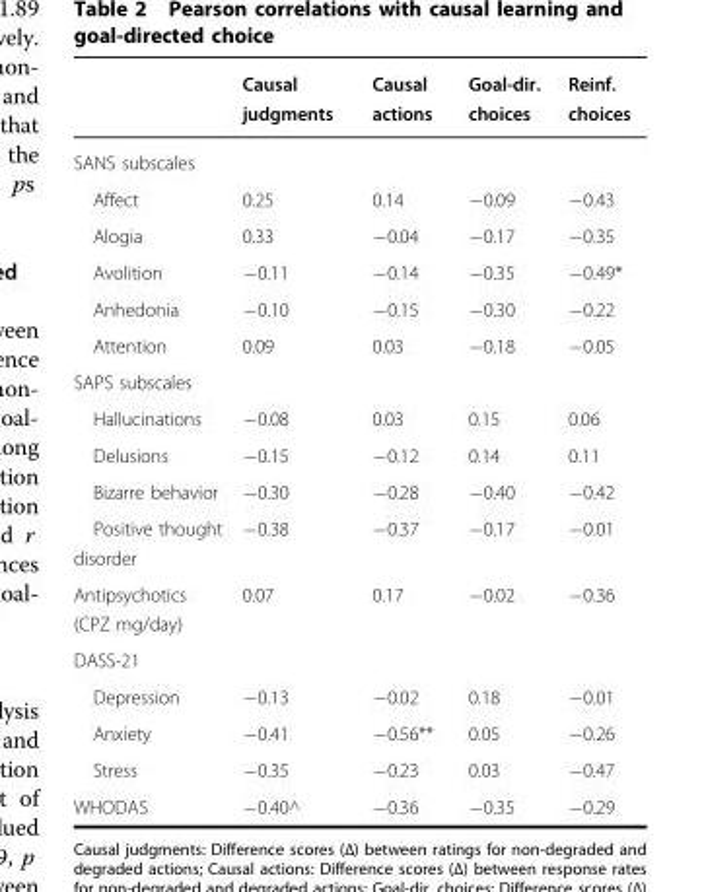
<table><thead><tr><td></td><td>Causal judgments</td><td>Causal actions</td><td>Goal-dir. choices</td><td>Reinf. choices</td></tr></thead><tbody><tr><td colspan="5">SANS subscales</td></tr><tr><td>Affect</td><td>0.25</td><td>0.14</td><td>−0.09</td><td>−0.43</td></tr><tr><td>Alogia</td><td>0.33</td><td>−0.04</td><td>−0.17</td><td>−0.35</td></tr><tr><td>Avolition</td><td>−0.11</td><td>−0.14</td><td>−0.35</td><td>−0.49*</td></tr><tr><td>Anhedonia</td><td>−0.10</td><td>−0.15</td><td>−0.30</td><td>−0.22</td></tr><tr><td>Attention</td><td>0.09</td><td>0.03</td><td>−0.18</td><td>−0.05</td></tr><tr><td colspan="5">SAPS subscales</td></tr><tr><td>Hallucinations</td><td>−0.08</td><td>0.03</td><td>0.15</td><td>0.06</td></tr><tr><td>Delusions</td><td>−0.15</td><td>−0.12</td><td>0.14</td><td>0.11</td></tr><tr><td>Bizarre behavior</td><td>−0.30</td><td>−0.28</td><td>−0.40</td><td>−0.42</td></tr><tr><td>Positive thought disorder</td><td>−0.38</td><td>−0.37</td><td>−0.17</td><td>−0.01</td></tr><tr><td>Antipsychotics (CPZ mg/day)</td><td>0.07</td><td>0.17</td><td>−0.02</td><td>−0.36</td></tr><tr><td colspan="5">DASS-21</td></tr><tr><td>Depression</td><td>−0.13</td><td>−0.02</td><td>0.18</td><td>−0.01</td></tr><tr><td>Anxiety</td><td>−0.41</td><td>−0.56**</td><td>0.05</td><td>−0.26</td></tr><tr><td>Stress</td><td>−0.35</td><td>−0.23</td><td>0.03</td><td>−0.47</td></tr><tr><td>WHODAS</td><td>−0.40^</td><td>−0.36</td><td>−0.35</td><td>−0.29</td></tr></tbody></table>